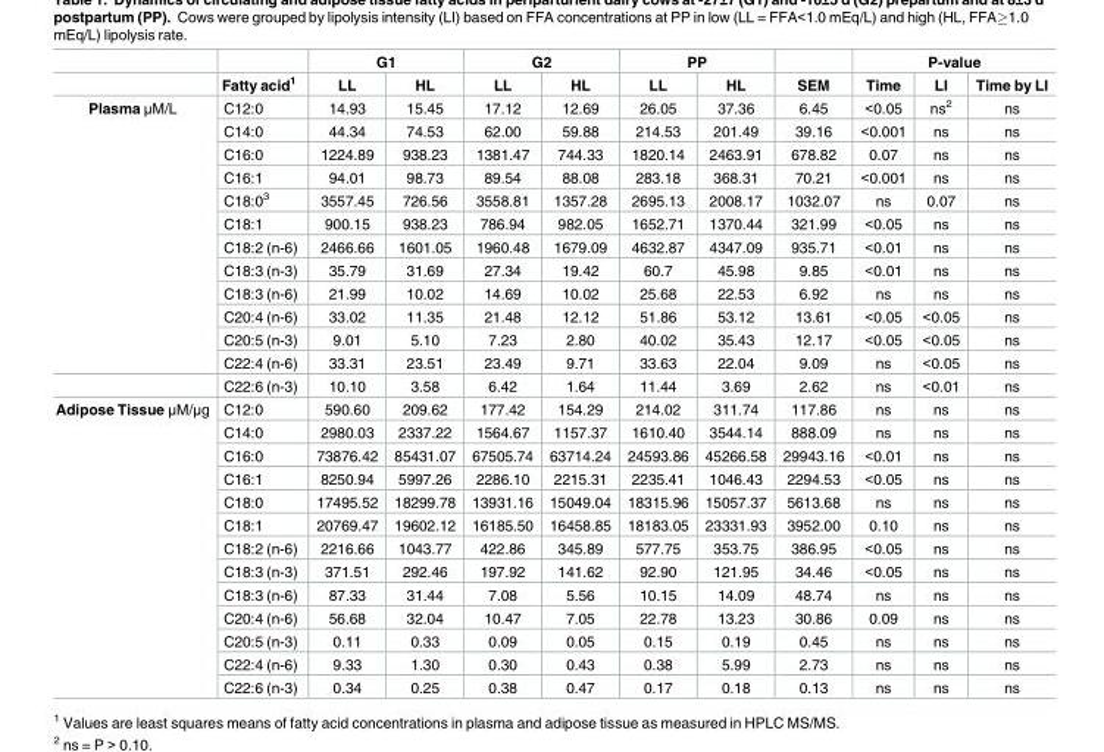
<table><thead><tr><td rowspan="2"></td><td rowspan="2">Fatty acid<sup>1</sup></td><td colspan="2">G1</td><td colspan="2">G2</td><td colspan="2">PP</td><td rowspan="2">SEM</td><td colspan="3">P-value</td></tr><tr><td>LL</td><td>HL</td><td>LL</td><td>HL</td><td>LL</td><td>HL</td><td>Time</td><td>LI</td><td>Time by LI</td></tr></thead><tbody><tr><td rowspan="13">Plasma μM/L</td><td>C12:0</td><td>14.93</td><td>15.45</td><td>17.12</td><td>12.69</td><td>26.05</td><td>37.36</td><td>6.45</td><td>&lt;0.05</td><td>ns<sup>2</sup></td><td>ns</td></tr><tr><td>C14:0</td><td>44.34</td><td>74.53</td><td>62.00</td><td>59.88</td><td>214.53</td><td>201.49</td><td>39.16</td><td>&lt;0.001</td><td>ns</td><td>ns</td></tr><tr><td>C16:0</td><td>1224.89</td><td>938.23</td><td>1381.47</td><td>744.33</td><td>1820.14</td><td>2463.91</td><td>678.82</td><td>0.07</td><td>ns</td><td>ns</td></tr><tr><td>C16:1</td><td>94.01</td><td>98.73</td><td>89.54</td><td>88.08</td><td>283.18</td><td>368.31</td><td>70.21</td><td>&lt;0.001</td><td>ns</td><td>ns</td></tr><tr><td>C18:0<sup>3</sup></td><td>3557.45</td><td>726.56</td><td>3558.81</td><td>1357.28</td><td>2695.13</td><td>2008.17</td><td>1032.07</td><td>ns</td><td>0.07</td><td>ns</td></tr><tr><td>C18:1</td><td>900.15</td><td>938.23</td><td>786.94</td><td>982.05</td><td>1652.71</td><td>1370.44</td><td>321.99</td><td>&lt;0.05</td><td>ns</td><td>ns</td></tr><tr><td>C18:2 (n-6)</td><td>2466.66</td><td>1601.05</td><td>1960.48</td><td>1679.09</td><td>4632.87</td><td>4347.09</td><td>935.71</td><td>&lt;0.01</td><td>ns</td><td>ns</td></tr><tr><td>C18:3 (n-3)</td><td>35.79</td><td>31.69</td><td>27.34</td><td>19.42</td><td>60.7</td><td>45.98</td><td>9.85</td><td>&lt;0.01</td><td>ns</td><td>ns</td></tr><tr><td>C18:3 (n-6)</td><td>21.99</td><td>10.02</td><td>14.69</td><td>10.02</td><td>25.68</td><td>22.53</td><td>6.92</td><td>ns</td><td>ns</td><td>ns</td></tr><tr><td>C20:4 (n-6)</td><td>33.02</td><td>11.35</td><td>21.48</td><td>12.12</td><td>51.86</td><td>53.12</td><td>13.61</td><td>&lt;0.05</td><td>&lt;0.05</td><td>ns</td></tr><tr><td>C20:5 (n-3)</td><td>9.01</td><td>5.10</td><td>7.23</td><td>2.80</td><td>40.02</td><td>35.43</td><td>12.17</td><td>&lt;0.05</td><td>&lt;0.05</td><td>ns</td></tr><tr><td>C22:4 (n-6)</td><td>33.31</td><td>23.51</td><td>23.49</td><td>9.71</td><td>33.63</td><td>22.04</td><td>9.09</td><td>ns</td><td>&lt;0.05</td><td>ns</td></tr><tr><td>C22:6 (n-3)</td><td>10.10</td><td>3.58</td><td>6.42</td><td>1.64</td><td>11.44</td><td>3.69</td><td>2.62</td><td>ns</td><td>&lt;0.01</td><td>ns</td></tr><tr><td rowspan="13">Adipose Tissue μM/μg</td><td>C12:0</td><td>590.60</td><td>209.62</td><td>177.42</td><td>154.29</td><td>214.02</td><td>311.74</td><td>117.86</td><td>ns</td><td>ns</td><td>ns</td></tr><tr><td>C14:0</td><td>2980.03</td><td>2337.22</td><td>1564.67</td><td>1157.37</td><td>1610.40</td><td>3544.14</td><td>888.09</td><td>ns</td><td>ns</td><td>ns</td></tr><tr><td>C16:0</td><td>73876.42</td><td>85431.07</td><td>67505.74</td><td>63714.24</td><td>24593.86</td><td>45266.58</td><td>29943.16</td><td>&lt;0.01</td><td>ns</td><td>ns</td></tr><tr><td>C16:1</td><td>8250.94</td><td>5997.26</td><td>2286.10</td><td>2215.31</td><td>2235.41</td><td>1046.43</td><td>2294.53</td><td>&lt;0.05</td><td>ns</td><td>ns</td></tr><tr><td>C18:0</td><td>17495.52</td><td>18299.78</td><td>13931.16</td><td>15049.04</td><td>18315.96</td><td>15057.37</td><td>5613.68</td><td>ns</td><td>ns</td><td>ns</td></tr><tr><td>C18:1</td><td>20769.47</td><td>19602.12</td><td>16185.50</td><td>16458.85</td><td>18183.05</td><td>23331.93</td><td>3952.00</td><td>0.10</td><td>ns</td><td>ns</td></tr><tr><td>C18:2 (n-6)</td><td>2216.66</td><td>1043.77</td><td>422.86</td><td>345.89</td><td>577.75</td><td>353.75</td><td>386.95</td><td>&lt;0.05</td><td>ns</td><td>ns</td></tr><tr><td>C18:3 (n-3)</td><td>371.51</td><td>292.46</td><td>197.92</td><td>141.62</td><td>92.90</td><td>121.95</td><td>34.46</td><td>&lt;0.05</td><td>ns</td><td>ns</td></tr><tr><td>C18:3 (n-6)</td><td>87.33</td><td>31.44</td><td>7.08</td><td>5.56</td><td>10.15</td><td>14.09</td><td>48.74</td><td>ns</td><td>ns</td><td>ns</td></tr><tr><td>C20:4 (n-6)</td><td>56.68</td><td>32.04</td><td>10.47</td><td>7.05</td><td>22.78</td><td>13.23</td><td>30.86</td><td>0.09</td><td>ns</td><td>ns</td></tr><tr><td>C20:5 (n-3)</td><td>0.11</td><td>0.33</td><td>0.09</td><td>0.05</td><td>0.15</td><td>0.19</td><td>0.45</td><td>ns</td><td>ns</td><td>ns</td></tr><tr><td>C22:4 (n-6)</td><td>9.33</td><td>1.30</td><td>0.30</td><td>0.43</td><td>0.38</td><td>5.99</td><td>2.73</td><td>ns</td><td>ns</td><td>ns</td></tr><tr><td>C22:6 (n-3)</td><td>0.34</td><td>0.25</td><td>0.38</td><td>0.47</td><td>0.17</td><td>0.18</td><td>0.13</td><td>ns</td><td>ns</td><td>ns</td></tr></tbody></table>